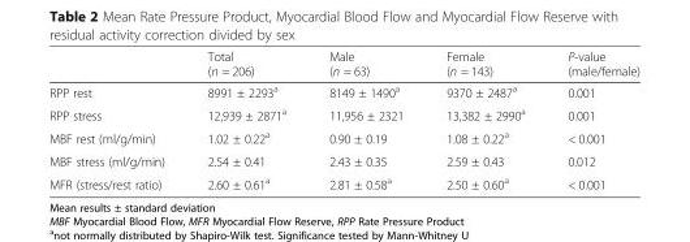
<table><thead><tr><td></td><td>Total (n = 206)</td><td>Male (n = 63)</td><td>Female (n = 143)</td><td>P-value (male/female)</td></tr></thead><tbody><tr><td>RPP rest</td><td>8991 ± 2293<sup>a</sup></td><td>8149 ± 1490<sup>a</sup></td><td>9370 ± 2487<sup>a</sup></td><td>0.001</td></tr><tr><td>RPP stress</td><td>12,939 ± 2871<sup>a</sup></td><td>11,956 ± 2321</td><td>13,382 ± 2990<sup>a</sup></td><td>0.001</td></tr><tr><td>MBF rest (ml/g/min)</td><td>1.02 ± 0.22<sup>a</sup></td><td>0.90 ± 0.19</td><td>1.08 ± 0.22<sup>a</sup></td><td>&lt; 0.001</td></tr><tr><td>MBF stress (ml/g/min)</td><td>2.54 ± 0.41</td><td>2.43 ± 0.35</td><td>2.59 ± 0.43</td><td>0.012</td></tr><tr><td>MFR (stress/rest ratio)</td><td>2.60 ± 0.61<sup>a</sup></td><td>2.81 ± 0.58<sup>a</sup></td><td>2.50 ± 0.60<sup>a</sup></td><td>&lt; 0.001</td></tr></tbody></table>